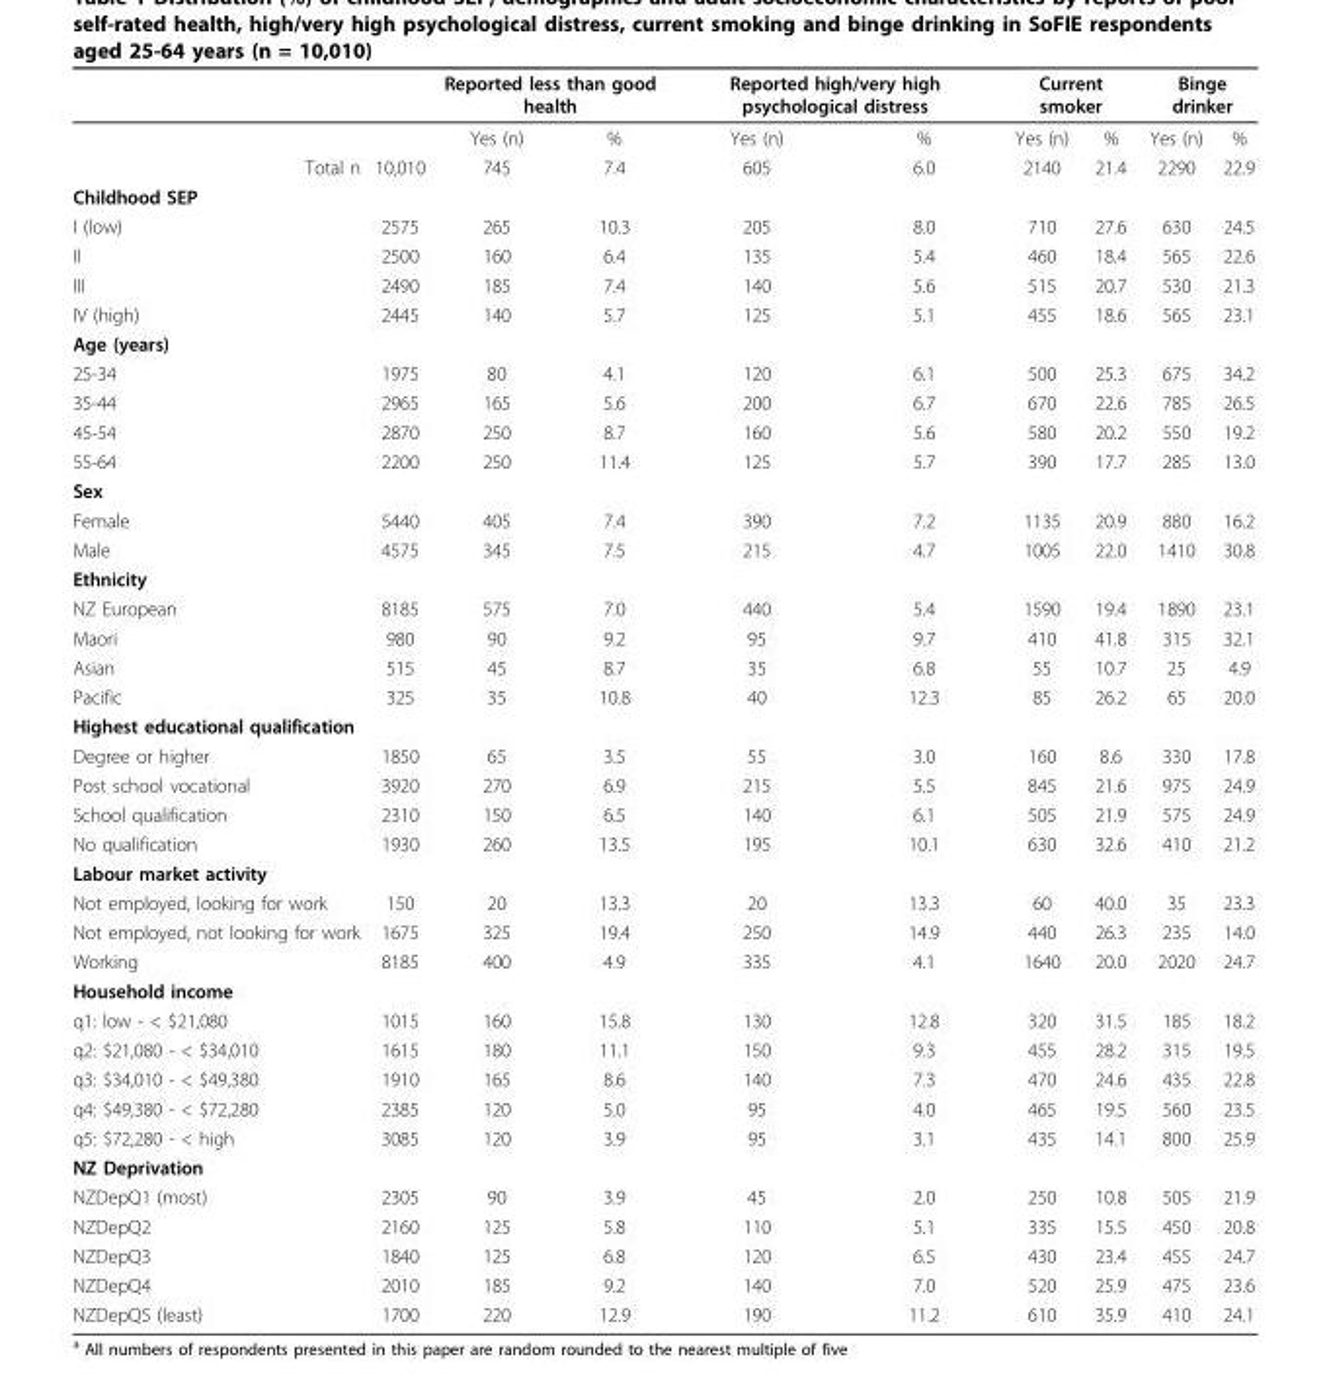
<table><thead><tr><td rowspan="2"></td><td rowspan="2"></td><td colspan="2">Reported less than good health</td><td colspan="2">Reported high/very high psychological distress</td><td colspan="2">Current smoker</td><td colspan="2">Binge drinker</td></tr><tr><td>Yes (n)</td><td>%</td><td>Yes (n)</td><td>%</td><td>Yes (n)</td><td>%</td><td>Yes (n)</td><td>%</td></tr></thead><tbody><tr><td>Total n</td><td>10,010</td><td>745</td><td>7.4</td><td>605</td><td>6.0</td><td>2140</td><td>21.4</td><td>2290</td><td>22.9</td></tr><tr><td colspan="10">Childhood SEP</td></tr><tr><td>I (low)</td><td>2575</td><td>265</td><td>10.3</td><td>205</td><td>8.0</td><td>710</td><td>27.6</td><td>630</td><td>24.5</td></tr><tr><td>II</td><td>2500</td><td>160</td><td>6.4</td><td>135</td><td>5.4</td><td>460</td><td>18.4</td><td>565</td><td>22.6</td></tr><tr><td>III</td><td>2490</td><td>185</td><td>7.4</td><td>140</td><td>5.6</td><td>515</td><td>20.7</td><td>530</td><td>21.3</td></tr><tr><td>IV (high)</td><td>2445</td><td>140</td><td>5.7</td><td>125</td><td>5.1</td><td>455</td><td>18.6</td><td>565</td><td>23.1</td></tr><tr><td colspan="10">Age (years)</td></tr><tr><td>25-34</td><td>1975</td><td>80</td><td>4.1</td><td>120</td><td>6.1</td><td>500</td><td>25.3</td><td>675</td><td>34.2</td></tr><tr><td>35-44</td><td>2965</td><td>165</td><td>5.6</td><td>200</td><td>6.7</td><td>670</td><td>22.6</td><td>785</td><td>26.5</td></tr><tr><td>45-54</td><td>2870</td><td>250</td><td>8.7</td><td>160</td><td>5.6</td><td>580</td><td>20.2</td><td>550</td><td>19.2</td></tr><tr><td>55-64</td><td>2200</td><td>250</td><td>11.4</td><td>125</td><td>5.7</td><td>390</td><td>17.7</td><td>285</td><td>13.0</td></tr><tr><td colspan="10">Sex</td></tr><tr><td>Female</td><td>5440</td><td>405</td><td>7.4</td><td>390</td><td>7.2</td><td>1135</td><td>20.9</td><td>880</td><td>16.2</td></tr><tr><td>Male</td><td>4575</td><td>345</td><td>7.5</td><td>215</td><td>4.7</td><td>1005</td><td>22.0</td><td>1410</td><td>30.8</td></tr><tr><td colspan="10">Ethnicity</td></tr><tr><td>NZ European</td><td>8185</td><td>575</td><td>7.0</td><td>440</td><td>5.4</td><td>1590</td><td>19.4</td><td>1890</td><td>23.1</td></tr><tr><td>Maori</td><td>980</td><td>90</td><td>9.2</td><td>95</td><td>9.7</td><td>410</td><td>41.8</td><td>315</td><td>32.1</td></tr><tr><td>Asian</td><td>515</td><td>45</td><td>8.7</td><td>35</td><td>6.8</td><td>55</td><td>10.7</td><td>25</td><td>4.9</td></tr><tr><td>Pacific</td><td>325</td><td>35</td><td>10.8</td><td>40</td><td>12.3</td><td>85</td><td>26.2</td><td>65</td><td>20.0</td></tr><tr><td colspan="10">Highest educational qualification</td></tr><tr><td>Degree or higher</td><td>1850</td><td>65</td><td>3.5</td><td>55</td><td>3.0</td><td>160</td><td>8.6</td><td>330</td><td>17.8</td></tr><tr><td>Post school vocational</td><td>3920</td><td>270</td><td>6.9</td><td>215</td><td>5.5</td><td>845</td><td>21.6</td><td>975</td><td>24.9</td></tr><tr><td>School qualification</td><td>2310</td><td>150</td><td>6.5</td><td>140</td><td>6.1</td><td>505</td><td>21.9</td><td>575</td><td>24.9</td></tr><tr><td>No qualification</td><td>1930</td><td>260</td><td>13.5</td><td>195</td><td>10.1</td><td>630</td><td>32.6</td><td>410</td><td>21.2</td></tr><tr><td colspan="10">Labour market activity</td></tr><tr><td>Not employed, looking for work</td><td>150</td><td>20</td><td>13.3</td><td>20</td><td>13.3</td><td>60</td><td>40.0</td><td>35</td><td>23.3</td></tr><tr><td>Not employed, not looking for work</td><td>1675</td><td>325</td><td>19.4</td><td>250</td><td>14.9</td><td>440</td><td>26.3</td><td>235</td><td>14.0</td></tr><tr><td>Working</td><td>8185</td><td>400</td><td>4.9</td><td>335</td><td>4.1</td><td>1640</td><td>20.0</td><td>2020</td><td>24.7</td></tr><tr><td colspan="10">Household income</td></tr><tr><td>q1: low - &lt; $21,080</td><td>1015</td><td>160</td><td>15.8</td><td>130</td><td>12.8</td><td>320</td><td>31.5</td><td>185</td><td>18.2</td></tr><tr><td>q2: $21,080 - &lt; $34,010</td><td>1615</td><td>180</td><td>11.1</td><td>150</td><td>9.3</td><td>455</td><td>28.2</td><td>315</td><td>19.5</td></tr><tr><td>q3: $34,010 - &lt; $49,380</td><td>1910</td><td>165</td><td>8.6</td><td>140</td><td>7.3</td><td>470</td><td>24.6</td><td>435</td><td>22.8</td></tr><tr><td>q4: $49,380 - &lt; $72,280</td><td>2385</td><td>120</td><td>5.0</td><td>95</td><td>4.0</td><td>465</td><td>19.5</td><td>560</td><td>23.5</td></tr><tr><td>q5: $72,280 - &lt; high</td><td>3085</td><td>120</td><td>3.9</td><td>95</td><td>3.1</td><td>435</td><td>14.1</td><td>800</td><td>25.9</td></tr><tr><td colspan="10">NZ Deprivation</td></tr><tr><td>NZDepQ1 (most)</td><td>2305</td><td>90</td><td>3.9</td><td>45</td><td>2.0</td><td>250</td><td>10.8</td><td>505</td><td>21.9</td></tr><tr><td>NZDepQ2</td><td>2160</td><td>125</td><td>5.8</td><td>110</td><td>5.1</td><td>335</td><td>15.5</td><td>450</td><td>20.8</td></tr><tr><td>NZDepQ3</td><td>1840</td><td>125</td><td>6.8</td><td>120</td><td>6.5</td><td>430</td><td>23.4</td><td>455</td><td>24.7</td></tr><tr><td>NZDepQ4</td><td>2010</td><td>185</td><td>9.2</td><td>140</td><td>7.0</td><td>520</td><td>25.9</td><td>475</td><td>23.6</td></tr><tr><td>NZDepQ5 (least)</td><td>1700</td><td>220</td><td>12.9</td><td>190</td><td>11.2</td><td>610</td><td>35.9</td><td>410</td><td>24.1</td></tr></tbody></table>